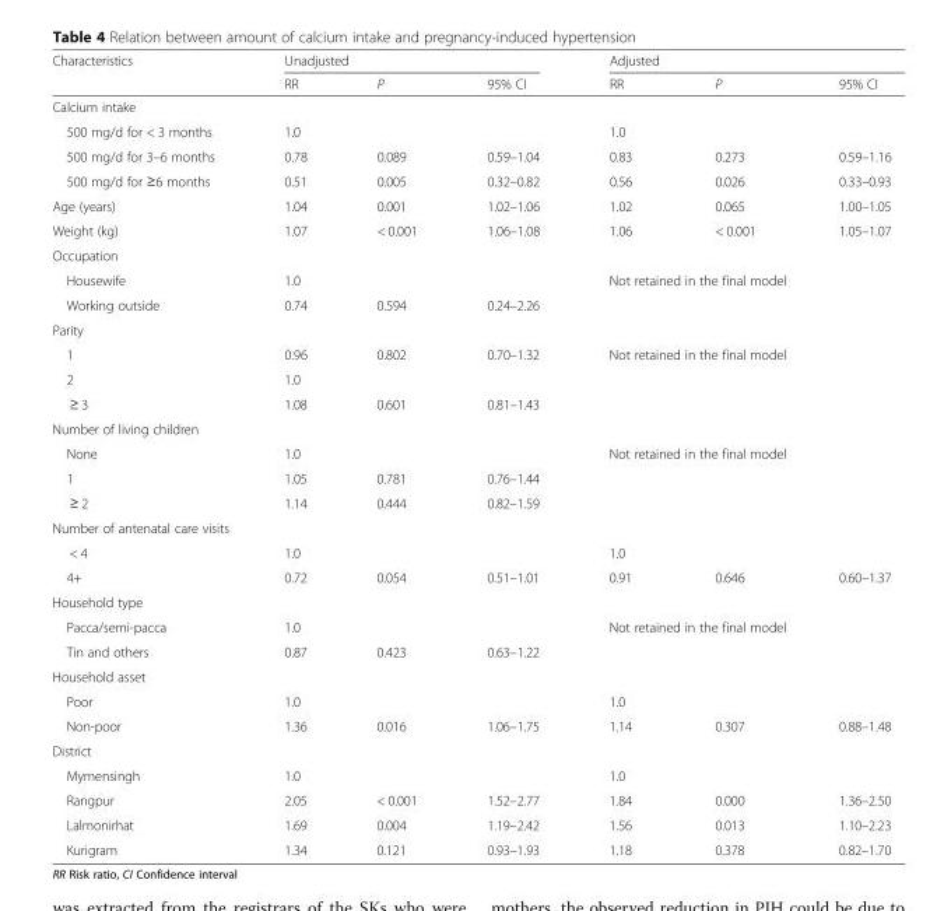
<table><thead><tr><td rowspan="2">Characteristics</td><td colspan="3">Unadjusted</td><td colspan="3">Adjusted</td></tr><tr><td>RR</td><td>P</td><td>95% CI</td><td>RR</td><td>P</td><td>95% CI</td></tr></thead><tbody><tr><td colspan="7">Calcium intake</td></tr><tr><td>500 mg/d for &lt; 3 months</td><td>1.0</td><td></td><td></td><td>1.0</td><td></td><td></td></tr><tr><td>500 mg/d for 3–6 months</td><td>0.78</td><td>0.089</td><td>0.59–1.04</td><td>0.83</td><td>0.273</td><td>0.59–1.16</td></tr><tr><td>500 mg/d for ≥6 months</td><td>0.51</td><td>0.005</td><td>0.32–0.82</td><td>0.56</td><td>0.026</td><td>0.33–0.93</td></tr><tr><td>Age (years)</td><td>1.04</td><td>0.001</td><td>1.02–1.06</td><td>1.02</td><td>0.065</td><td>1.00–1.05</td></tr><tr><td>Weight (kg)</td><td>1.07</td><td>&lt; 0.001</td><td>1.06–1.08</td><td>1.06</td><td>&lt; 0.001</td><td>1.05–1.07</td></tr><tr><td colspan="7">Occupation</td></tr><tr><td>Housewife</td><td>1.0</td><td></td><td></td><td rowspan="2" colspan="3">Not retained in the final model</td></tr><tr><td>Working outside</td><td>0.74</td><td>0.594</td><td>0.24–2.26</td></tr><tr><td colspan="7">Parity</td></tr><tr><td>1</td><td>0.96</td><td>0.802</td><td>0.70–1.32</td><td rowspan="3" colspan="3">Not retained in the final model</td></tr><tr><td>2</td><td>1.0</td><td></td><td></td></tr><tr><td>≥ 3</td><td>1.08</td><td>0.601</td><td>0.81–1.43</td></tr><tr><td colspan="7">Number of living children</td></tr><tr><td>None</td><td>1.0</td><td></td><td></td><td rowspan="3" colspan="3">Not retained in the final model</td></tr><tr><td>1</td><td>1.05</td><td>0.781</td><td>0.76–1.44</td></tr><tr><td>≥ 2</td><td>1.14</td><td>0.444</td><td>0.82–1.59</td></tr><tr><td colspan="7">Number of antenatal care visits</td></tr><tr><td>&lt; 4</td><td>1.0</td><td></td><td></td><td>1.0</td><td></td><td></td></tr><tr><td>4+</td><td>0.72</td><td>0.054</td><td>0.51–1.01</td><td>0.91</td><td>0.646</td><td>0.60–1.37</td></tr><tr><td colspan="7">Household type</td></tr><tr><td>Pacca/semi-pacca</td><td>1.0</td><td></td><td></td><td rowspan="2" colspan="3">Not retained in the final model</td></tr><tr><td>Tin and others</td><td>0.87</td><td>0.423</td><td>0.63–1.22</td></tr><tr><td colspan="7">Household asset</td></tr><tr><td>Poor</td><td>1.0</td><td></td><td></td><td>1.0</td><td></td><td></td></tr><tr><td>Non-poor</td><td>1.36</td><td>0.016</td><td>1.06–1.75</td><td>1.14</td><td>0.307</td><td>0.88–1.48</td></tr><tr><td colspan="7">District</td></tr><tr><td>Mymensingh</td><td>1.0</td><td></td><td></td><td>1.0</td><td></td><td></td></tr><tr><td>Rangpur</td><td>2.05</td><td>&lt; 0.001</td><td>1.52–2.77</td><td>1.84</td><td>0.000</td><td>1.36–2.50</td></tr><tr><td>Lalmonirhat</td><td>1.69</td><td>0.004</td><td>1.19–2.42</td><td>1.56</td><td>0.013</td><td>1.10–2.23</td></tr><tr><td>Kurigram</td><td>1.34</td><td>0.121</td><td>0.93–1.93</td><td>1.18</td><td>0.378</td><td>0.82–1.70</td></tr></tbody></table>